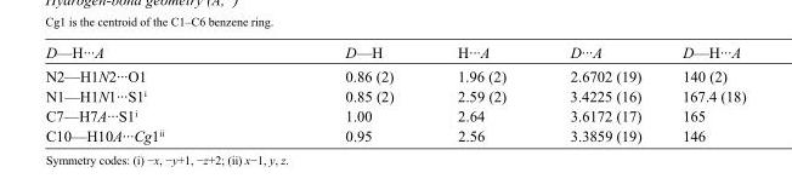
<table><tbody><tr><td>D—H···A</td><td>D—H</td><td>H···A</td><td>D···A</td><td>D—H···A</td></tr><tr><td>N2—H1N2···O1</td><td>0.86 (2)</td><td>1.96 (2)</td><td>2.6702 (19)</td><td>140 (2)</td></tr><tr><td>N1—H1N1···S1<sup>i</sup></td><td>0.85 (2)</td><td>2.59 (2)</td><td>3.4225 (16)</td><td>167.4 (18)</td></tr><tr><td>C7—H7A···S1<sup>i</sup></td><td>1.00</td><td>2.64</td><td>3.6172 (17)</td><td>165</td></tr><tr><td>C10—H10A···Cg1<sup>ii</sup></td><td>0.95</td><td>2.56</td><td>3.3859 (19)</td><td>146</td></tr></tbody></table>